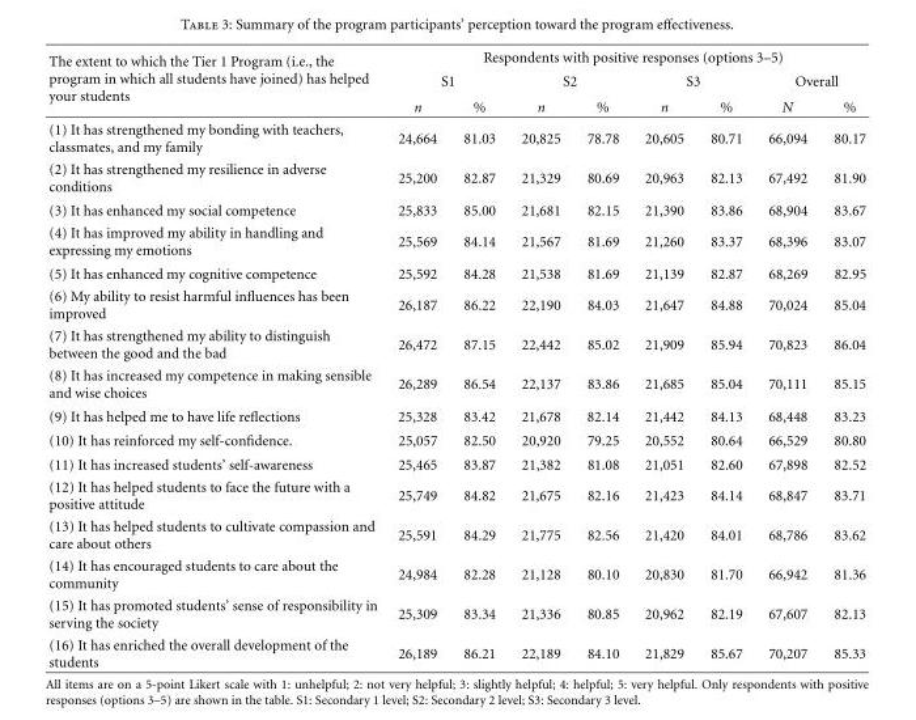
<table><thead><tr><td rowspan="3">The extent to which the Tier 1 Program (i.e., the program in which all students have joined) has helped your students</td><td colspan="8">Respondents with positive responses (options 3–5)</td></tr><tr><td colspan="2">S1</td><td colspan="2">S2</td><td colspan="2">S3</td><td colspan="2">Overall</td></tr><tr><td>n</td><td>%</td><td>n</td><td>%</td><td>n</td><td>%</td><td>N</td><td>%</td></tr></thead><tbody><tr><td>(1) It has strengthened my bonding with teachers, classmates, and my family</td><td>24,664</td><td>81.03</td><td>20,825</td><td>78.78</td><td>20,605</td><td>80.71</td><td>66,094</td><td>80.17</td></tr><tr><td>(2) It has strengthened my resilience in adverse conditions</td><td>25,200</td><td>82.87</td><td>21,329</td><td>80.69</td><td>20,963</td><td>82.13</td><td>67,492</td><td>81.90</td></tr><tr><td>(3) It has enhanced my social competence</td><td>25,833</td><td>85.00</td><td>21,681</td><td>82.15</td><td>21,390</td><td>83.86</td><td>68,904</td><td>83.67</td></tr><tr><td>(4) It has improved my ability in handling and expressing my emotions</td><td>25,569</td><td>84.14</td><td>21,567</td><td>81.69</td><td>21,260</td><td>83.37</td><td>68,396</td><td>83.07</td></tr><tr><td>(5) It has enhanced my cognitive competence</td><td>25,592</td><td>84.28</td><td>21,538</td><td>81.69</td><td>21,139</td><td>82.87</td><td>68,269</td><td>82.95</td></tr><tr><td>(6) My ability to resist harmful influences has been improved</td><td>26,187</td><td>86.22</td><td>22,190</td><td>84.03</td><td>21,647</td><td>84.88</td><td>70,024</td><td>85.04</td></tr><tr><td>(7) It has strengthened my ability to distinguish between the good and the bad</td><td>26,472</td><td>87.15</td><td>22,442</td><td>85.02</td><td>21,909</td><td>85.94</td><td>70,823</td><td>86.04</td></tr><tr><td>(8) It has increased my competence in making sensible and wise choices</td><td>26,289</td><td>86.54</td><td>22,137</td><td>83.86</td><td>21,685</td><td>85.04</td><td>70,111</td><td>85.15</td></tr><tr><td>(9) It has helped me to have life reflections</td><td>25,328</td><td>83.42</td><td>21,678</td><td>82.14</td><td>21,442</td><td>84.13</td><td>68,448</td><td>83.23</td></tr><tr><td>(10) It has reinforced my self-confidence.</td><td>25,057</td><td>82.50</td><td>20,920</td><td>79.25</td><td>20,552</td><td>80.64</td><td>66,529</td><td>80.80</td></tr><tr><td>(11) It has increased students’ self-awareness</td><td>25,465</td><td>83.87</td><td>21,382</td><td>81.08</td><td>21,051</td><td>82.60</td><td>67,898</td><td>82.52</td></tr><tr><td>(12) It has helped students to face the future with a positive attitude</td><td>25,749</td><td>84.82</td><td>21,675</td><td>82.16</td><td>21,423</td><td>84.14</td><td>68,847</td><td>83.71</td></tr><tr><td>(13) It has helped students to cultivate compassion and care about others</td><td>25,591</td><td>84.29</td><td>21,775</td><td>82.56</td><td>21,420</td><td>84.01</td><td>68,786</td><td>83.62</td></tr><tr><td>(14) It has encouraged students to care about the community</td><td>24,984</td><td>82.28</td><td>21,128</td><td>80.10</td><td>20,830</td><td>81.70</td><td>66,942</td><td>81.36</td></tr><tr><td>(15) It has promoted students’ sense of responsibility in serving the society</td><td>25,309</td><td>83.34</td><td>21,336</td><td>80.85</td><td>20,962</td><td>82.19</td><td>67,607</td><td>82.13</td></tr><tr><td>(16) It has enriched the overall development of the students</td><td>26,189</td><td>86.21</td><td>22,189</td><td>84.10</td><td>21,829</td><td>85.67</td><td>70,207</td><td>85.33</td></tr></tbody></table>